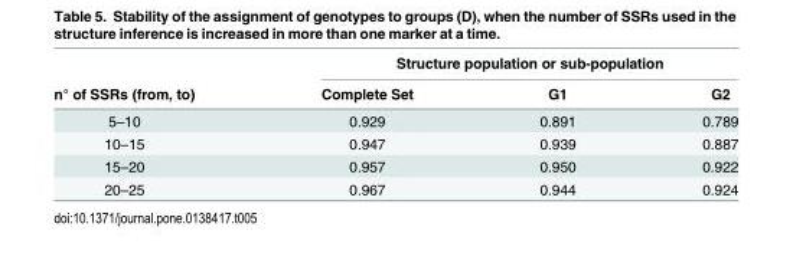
<table><thead><tr><td rowspan="2">n° of SSRs (from, to)</td><td colspan="3">Structure population or sub-population</td></tr><tr><td>Complete Set</td><td>G1</td><td>G2</td></tr></thead><tbody><tr><td>5–10</td><td>0.929</td><td>0.891</td><td>0.789</td></tr><tr><td>10–15</td><td>0.947</td><td>0.939</td><td>0.887</td></tr><tr><td>15–20</td><td>0.957</td><td>0.950</td><td>0.922</td></tr><tr><td>20–25</td><td>0.967</td><td>0.944</td><td>0.924</td></tr></tbody></table>